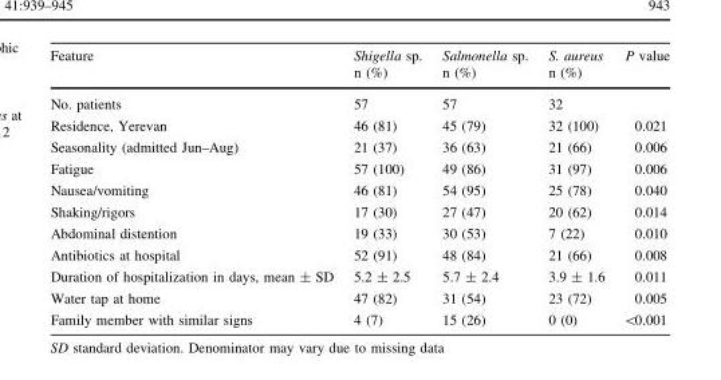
<table><thead><tr><td rowspan="2">Feature</td><td rowspan="2">Shigella sp. n (%)</td><td rowspan="2">Salmonella sp. n (%)</td><td rowspan="2">S. aureus n (%)</td><td rowspan="2">P value</td></tr><tr></tr></thead><tbody><tr><td>No. patients</td><td>57</td><td>57</td><td>32</td><td></td></tr><tr><td>Residence, Yerevan</td><td>46 (81)</td><td>45 (79)</td><td>32 (100)</td><td>0.021</td></tr><tr><td>Seasonality (admitted Jun–Aug)</td><td>21 (37)</td><td>36 (63)</td><td>21 (66)</td><td>0.006</td></tr><tr><td>Fatigue</td><td>57 (100)</td><td>49 (86)</td><td>31 (97)</td><td>0.006</td></tr><tr><td>Nausea/vomiting</td><td>46 (81)</td><td>54 (95)</td><td>25 (78)</td><td>0.040</td></tr><tr><td>Shaking/rigors</td><td>17 (30)</td><td>27 (47)</td><td>20 (62)</td><td>0.014</td></tr><tr><td>Abdominal distention</td><td>19 (33)</td><td>30 (53)</td><td>7 (22)</td><td>0.010</td></tr><tr><td>Antibiotics at hospital</td><td>52 (91)</td><td>48 (84)</td><td>21 (66)</td><td>0.008</td></tr><tr><td>Duration of hospitalization in days, mean ± SD</td><td>5.2 ± 2.5</td><td>5.7 ± 2.4</td><td>3.9 ± 1.6</td><td>0.011</td></tr><tr><td>Water tap at home</td><td>47 (82)</td><td>31 (54)</td><td>23 (72)</td><td>0.005</td></tr><tr><td>Family member with similar signs</td><td>4 (7)</td><td>15 (26)</td><td>0 (0)</td><td>&lt;0.001</td></tr></tbody></table>